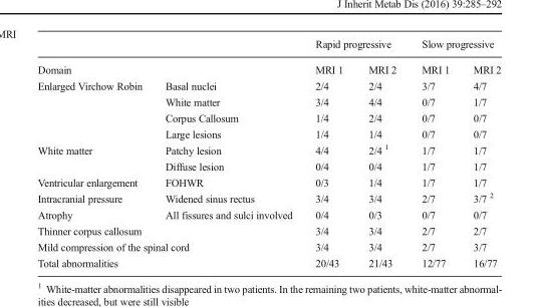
<table><thead><tr><td rowspan="2">Domain</td><td rowspan="2"></td><td colspan="2">Rapid progressive</td><td colspan="2">Slow progressive</td></tr><tr><td>MRI 1</td><td>MRI 2</td><td>MRI 1</td><td>MRI 2</td></tr></thead><tbody><tr><td rowspan="4">Enlarged Virchow Robin</td><td>Basal nuclei</td><td>2/4</td><td>2/4</td><td>3/7</td><td>4/7</td></tr><tr><td>White matter</td><td>3/4</td><td>4/4</td><td>0/7</td><td>1/7</td></tr><tr><td>Corpus Callosum</td><td>1/4</td><td>2/4</td><td>0/7</td><td>0/7</td></tr><tr><td>Large lesions</td><td>1/4</td><td>1/4</td><td>0/7</td><td>0/7</td></tr><tr><td rowspan="2">White matter</td><td>Patchy lesion</td><td>4/4</td><td>2/4 <sup>1</sup></td><td>1/7</td><td>1/7</td></tr><tr><td>Diffuse lesion</td><td>0/4</td><td>0/4</td><td>1/7</td><td>1/7</td></tr><tr><td>Ventricular enlargement</td><td>FOHWR</td><td>0/3</td><td>1/4</td><td>1/7</td><td>1/7</td></tr><tr><td>Intracranial pressure</td><td>Widened sinus rectus</td><td>3/4</td><td>3/4</td><td>2/7</td><td>3/7 <sup>2</sup></td></tr><tr><td>Atrophy</td><td>All fissures and sulci involved</td><td>0/4</td><td>0/3</td><td>0/7</td><td>0/7</td></tr><tr><td colspan="2">Thinner corpus callosum</td><td>3/4</td><td>3/4</td><td>2/7</td><td>2/7</td></tr><tr><td colspan="2">Mild compression of the spinal cord</td><td>3/4</td><td>3/4</td><td>2/7</td><td>3/7</td></tr><tr><td colspan="2">Total abnormalities</td><td>20/43</td><td>21/43</td><td>12/77</td><td>16/77</td></tr></tbody></table>